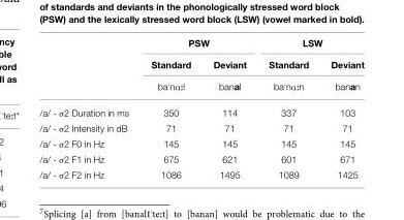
<table><thead><tr><td rowspan="2"></td><td colspan="2">PSW</td><td colspan="2">LSW</td></tr><tr><td>Standard</td><td>Deviant</td><td>Standard</td><td>Deviant</td></tr></thead><tbody><tr><td></td><td>ba&quot;nA:l</td><td>banal</td><td>ba&quot;nA:n</td><td>banan</td></tr><tr><td>/a/ - σ2 Duration in ms</td><td>350</td><td>114</td><td>337</td><td>103</td></tr><tr><td>/a/ - σ2 Intensity in dB</td><td>71</td><td>71</td><td>71</td><td>71</td></tr><tr><td>/a/ - σ2 F0 in Hz</td><td>145</td><td>145</td><td>145</td><td>145</td></tr><tr><td>/a/ - σ2 F1 in Hz</td><td>675</td><td>621</td><td>601</td><td>671</td></tr><tr><td>/a/ - σ2 F2 in Hz</td><td>1086</td><td>1495</td><td>1089</td><td>1425</td></tr></tbody></table>